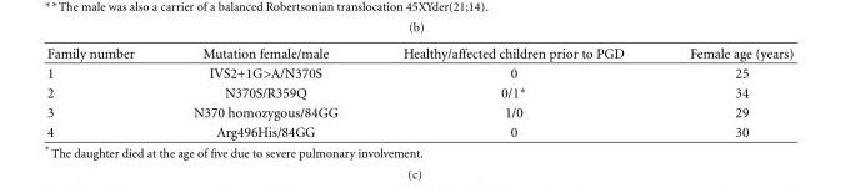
<table><thead><tr><td>Family number</td><td>Mutation female/male</td><td>Healthy/affected children prior to PGD</td><td>Female age (years)</td></tr></thead><tbody><tr><td>1</td><td>IVS2+1G&gt;A/N370S</td><td>0</td><td>25</td></tr><tr><td>2</td><td>N370S/R359Q</td><td>0/1∗</td><td>34</td></tr><tr><td>3</td><td>N370 homozygous/84GG</td><td>1/0</td><td>29</td></tr><tr><td>4</td><td>Arg496His/84GG</td><td>0</td><td>30</td></tr></tbody></table>